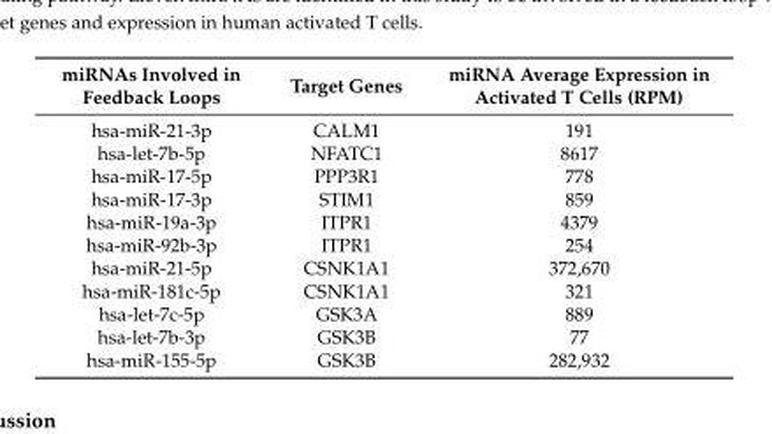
<table><thead><tr><td>miRNAs Involved in Feedback Loops</td><td>Target Genes</td><td>miRNA Average Expression in Activated T Cells (RPM)</td></tr></thead><tbody><tr><td>hsa-miR-21-3p</td><td>CALM1</td><td>191</td></tr><tr><td>hsa-let-7b-5p</td><td>NFATC1</td><td>8617</td></tr><tr><td>hsa-miR-17-5p</td><td>PPP3R1</td><td>778</td></tr><tr><td>hsa-miR-17-3p</td><td>STIM1</td><td>859</td></tr><tr><td>hsa-miR-19a-3p</td><td>ITPR1</td><td>4379</td></tr><tr><td>hsa-miR-92b-3p</td><td>ITPR1</td><td>254</td></tr><tr><td>hsa-miR-21-5p</td><td>CSNK1A1</td><td>372,670</td></tr><tr><td>hsa-miR-181c-5p</td><td>CSNK1A1</td><td>321</td></tr><tr><td>hsa-let-7c-5p</td><td>GSK3A</td><td>889</td></tr><tr><td>hsa-let-7b-3p</td><td>GSK3B</td><td>77</td></tr><tr><td>hsa-miR-155-5p</td><td>GSK3B</td><td>282,932</td></tr></tbody></table>